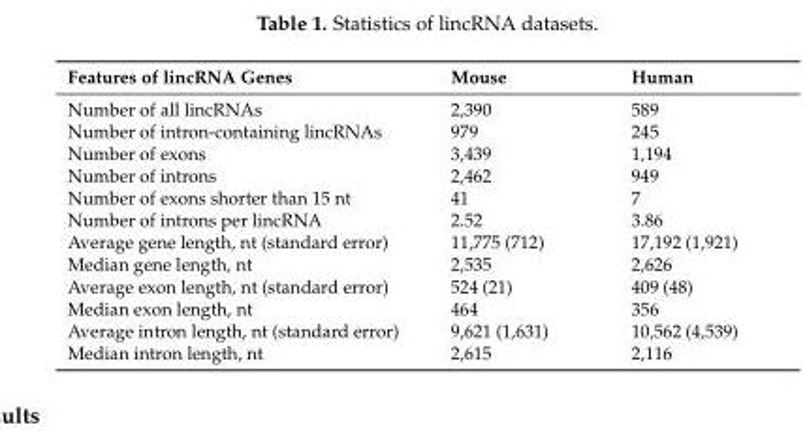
<table><thead><tr><td>Features of lincRNA Genes</td><td>Mouse</td><td>Human</td></tr></thead><tbody><tr><td>Number of all lincRNAs</td><td>2,390</td><td>589</td></tr><tr><td>Number of intron-containing lincRNAs</td><td>979</td><td>245</td></tr><tr><td>Number of exons</td><td>3,439</td><td>1,194</td></tr><tr><td>Number of introns</td><td>2,462</td><td>949</td></tr><tr><td>Number of exons shorter than 15 nt</td><td>41</td><td>7</td></tr><tr><td>Number of introns per lincRNA</td><td>2.52</td><td>3.86</td></tr><tr><td>Average gene length, nt (standard error)</td><td>11,775 (712)</td><td>17,192 (1,921)</td></tr><tr><td>Median gene length, nt</td><td>2,535</td><td>2,626</td></tr><tr><td>Average exon length, nt (standard error)</td><td>524 (21)</td><td>409 (48)</td></tr><tr><td>Median exon length, nt</td><td>464</td><td>356</td></tr><tr><td>Average intron length, nt (standard error)</td><td>9,621 (1,631)</td><td>10,562 (4,539)</td></tr><tr><td>Median intron length, nt</td><td>2,615</td><td>2,116</td></tr></tbody></table>